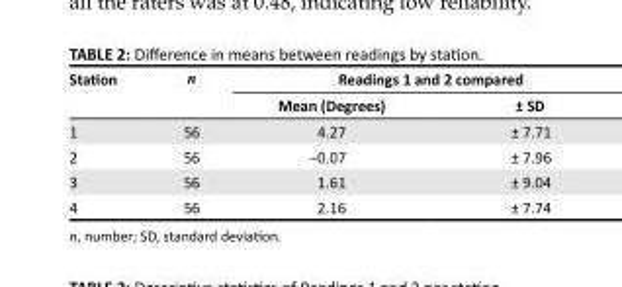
<table><thead><tr><td rowspan="2">Station</td><td rowspan="2">n</td><td colspan="2">Readings 1 and 2 compared</td></tr><tr><td>Mean (Degrees)</td><td>± SD</td></tr></thead><tbody><tr><td>1</td><td>56</td><td>4.27</td><td>± 7.71</td></tr><tr><td>2</td><td>56</td><td>−0.07</td><td>± 7.96</td></tr><tr><td>3</td><td>56</td><td>1.61</td><td>± 9.04</td></tr><tr><td>4</td><td>56</td><td>2.16</td><td>± 7.74</td></tr></tbody></table>